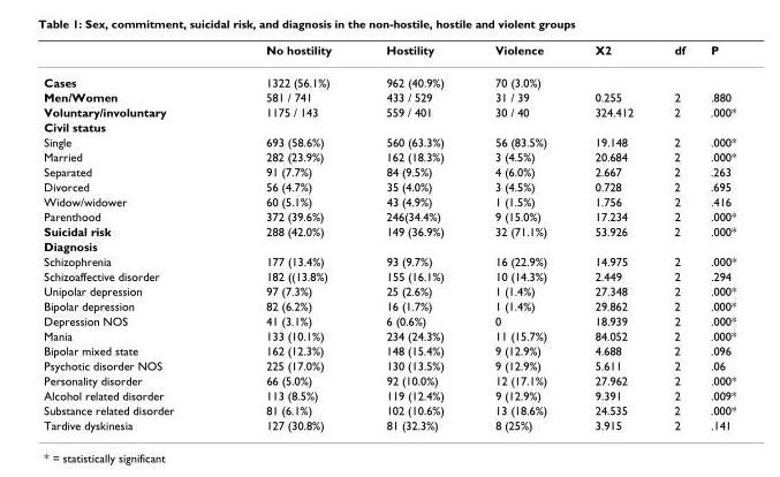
<table><thead><tr><td></td><td>No hostility</td><td>Hostility</td><td>Violence</td><td>X2</td><td>df</td><td>P</td></tr></thead><tbody><tr><td>Cases</td><td>1322 (56.1%)</td><td>962 (40.9%)</td><td>70 (3.0%)</td><td></td><td></td><td></td></tr><tr><td>Men/Women</td><td>581 / 741</td><td>433 / 529</td><td>31 / 39</td><td>0.255</td><td>2</td><td>.880</td></tr><tr><td>Voluntary/involuntary</td><td>1175 / 143</td><td>559 / 401</td><td>30 / 40</td><td>324.412</td><td>2</td><td>.000*</td></tr><tr><td colspan="7">Civil status</td></tr><tr><td>Single</td><td>693 (58.6%)</td><td>560 (63.3%)</td><td>56 (83.5%)</td><td>19.148</td><td>2</td><td>.000*</td></tr><tr><td>Married</td><td>282 (23.9%)</td><td>162 (18.3%)</td><td>3 (4.5%)</td><td>20.684</td><td>2</td><td>.000*</td></tr><tr><td>Separated</td><td>91 (7.7%)</td><td>84 (9.5%)</td><td>4 (6.0%)</td><td>2.667</td><td>2</td><td>.263</td></tr><tr><td>Divorced</td><td>56 (4.7%)</td><td>35 (4.0%)</td><td>3 (4.5%)</td><td>0.728</td><td>2</td><td>.695</td></tr><tr><td>Widow/widower</td><td>60 (5.1%)</td><td>43 (4.9%)</td><td>1 (1.5%)</td><td>1.756</td><td>2</td><td>.416</td></tr><tr><td>Parenthood</td><td>372 (39.6%)</td><td>246(34.4%)</td><td>9 (15.0%)</td><td>17.234</td><td>2</td><td>.000*</td></tr><tr><td>Suicidal risk</td><td>288 (42.0%)</td><td>149 (36.9%)</td><td>32 (71.1%)</td><td>53.926</td><td>2</td><td>.000*</td></tr><tr><td colspan="7">Diagnosis</td></tr><tr><td>Schizophrenia</td><td>177 (13.4%)</td><td>93 (9.7%)</td><td>16 (22.9%)</td><td>14.975</td><td>2</td><td>.000*</td></tr><tr><td>Schizoaffective disorder</td><td>182 ((13.8%)</td><td>155 (16.1%)</td><td>10 (14.3%)</td><td>2.449</td><td>2</td><td>.294</td></tr><tr><td>Unipolar depression</td><td>97 (7.3%)</td><td>25 (2.6%)</td><td>1 (1.4%)</td><td>27.348</td><td>2</td><td>.000*</td></tr><tr><td>Bipolar depression</td><td>82 (6.2%)</td><td>16 (1.7%)</td><td>1 (1.4%)</td><td>29.862</td><td>2</td><td>.000*</td></tr><tr><td>Depression NOS</td><td>41 (3.1%)</td><td>6 (0.6%)</td><td>0</td><td>18.939</td><td>2</td><td>.000*</td></tr><tr><td>Mania</td><td>133 (10.1%)</td><td>234 (24.3%)</td><td>11 (15.7%)</td><td>84.052</td><td>2</td><td>.000*</td></tr><tr><td>Bipolar mixed state</td><td>162 (12.3%)</td><td>148 (15.4%)</td><td>9 (12.9%)</td><td>4.688</td><td>2</td><td>.096</td></tr><tr><td>Psychotic disorder NOS</td><td>225 (17.0%)</td><td>130 (13.5%)</td><td>9 (12.9%)</td><td>5.611</td><td>2</td><td>.06</td></tr><tr><td>Personality disorder</td><td>66 (5.0%)</td><td>92 (10.0%)</td><td>12 (17.1%)</td><td>27.962</td><td>2</td><td>.000*</td></tr><tr><td>Alcohol related disorder</td><td>113 (8.5%)</td><td>119 (12.4%)</td><td>9 (12.9%)</td><td>9.391</td><td>2</td><td>.009*</td></tr><tr><td>Substance related disorder</td><td>81 (6.1%)</td><td>102 (10.6%)</td><td>13 (18.6%)</td><td>24.535</td><td>2</td><td>.000*</td></tr><tr><td>Tardive dyskinesia</td><td>127 (30.8%)</td><td>81 (32.3%)</td><td>8 (25%)</td><td>3.915</td><td>2</td><td>.141</td></tr></tbody></table>